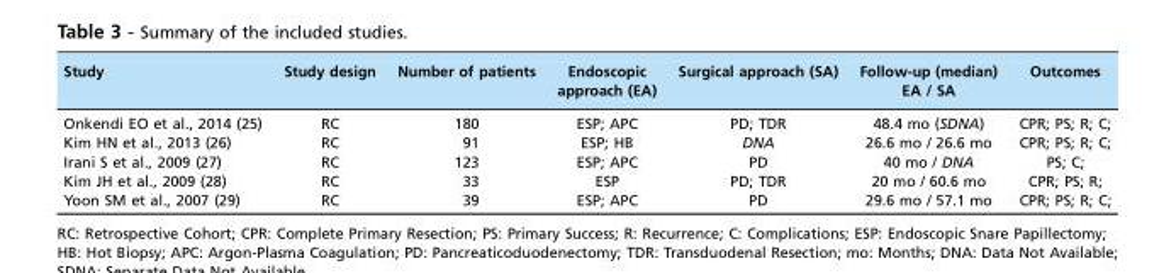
<table><thead><tr><td>Study</td><td>Study design</td><td>Number of patients</td><td>Endoscopic approach (EA)</td><td>Surgical approach (SA)</td><td>Follow-up (median) EA / SA</td><td>Outcomes</td></tr></thead><tbody><tr><td>Onkendi EO et al., 2014 (25)</td><td>RC</td><td>180</td><td>ESP; APC</td><td>PD; TDR</td><td>48.4 mo (SDNA)</td><td>CPR; PS; R; C;</td></tr><tr><td>Kim HN et al., 2013 (26)</td><td>RC</td><td>91</td><td>ESP; HB</td><td>DNA</td><td>26.6 mo / 26.6 mo</td><td>CPR; PS; R; C;</td></tr><tr><td>Irani S et al., 2009 (27)</td><td>RC</td><td>123</td><td>ESP; APC</td><td>PD</td><td>40 mo / DNA</td><td>PS; C;</td></tr><tr><td>Kim JH et al., 2009 (28)</td><td>RC</td><td>33</td><td>ESP</td><td>PD; TDR</td><td>20 mo / 60.6 mo</td><td>CPR; PS; R;</td></tr><tr><td>Yoon SM et al., 2007 (29)</td><td>RC</td><td>39</td><td>ESP; APC</td><td>PD</td><td>29.6 mo / 57.1 mo</td><td>CPR; PS; R; C;</td></tr></tbody></table>